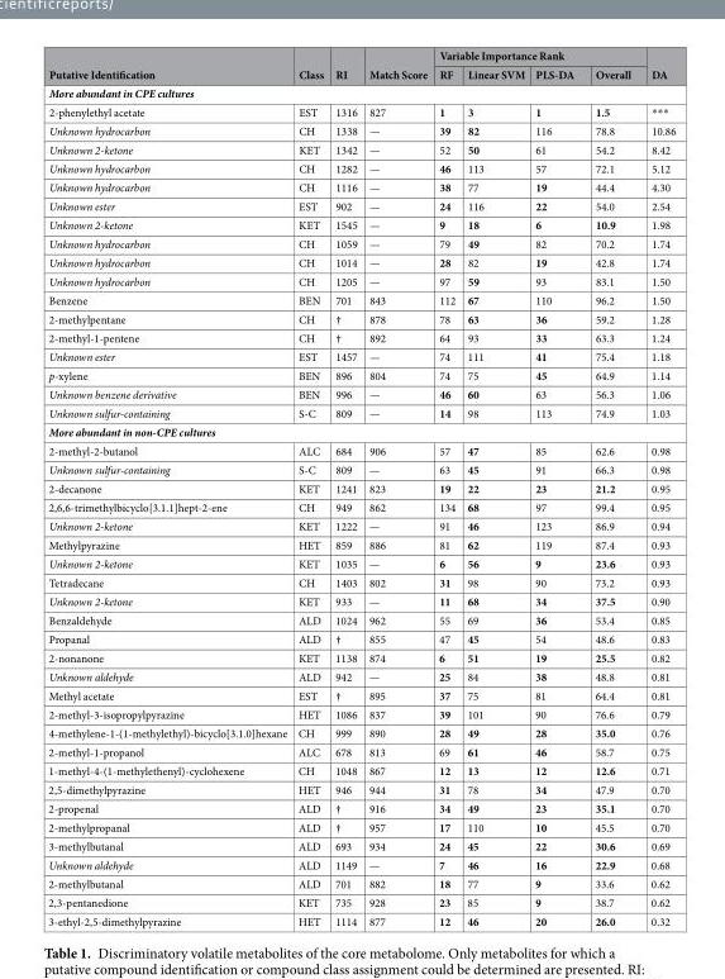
<table><thead><tr><td rowspan="2">Putative Identification</td><td rowspan="2">Class</td><td rowspan="2">RI</td><td rowspan="2">Match Score</td><td colspan="4">Variable Importance Rank</td><td rowspan="2">DA</td></tr><tr><td>RF</td><td>Linear SVM</td><td>PLS-DA</td><td>Overall</td></tr></thead><tbody><tr><td colspan="9">More abundant in CPE cultures</td></tr><tr><td>2-phenylethyl acetate</td><td>EST</td><td>1316</td><td>827</td><td>1</td><td>3</td><td>1</td><td>1.5</td><td>***</td></tr><tr><td>Unknown hydrocarbon</td><td>CH</td><td>1338</td><td>—</td><td>39</td><td>82</td><td>116</td><td>78.8</td><td>10.86</td></tr><tr><td>Unknown 2-ketone</td><td>KET</td><td>1342</td><td>—</td><td>52</td><td>50</td><td>61</td><td>54.2</td><td>8.42</td></tr><tr><td>Unknown hydrocarbon</td><td>CH</td><td>1282</td><td>—</td><td>46</td><td>113</td><td>57</td><td>72.1</td><td>5.12</td></tr><tr><td>Unknown hydrocarbon</td><td>CH</td><td>1116</td><td>—</td><td>38</td><td>77</td><td>19</td><td>44.4</td><td>4.30</td></tr><tr><td>Unknown ester</td><td>EST</td><td>902</td><td>—</td><td>24</td><td>116</td><td>22</td><td>54.0</td><td>2.54</td></tr><tr><td>Unknown 2-ketone</td><td>KET</td><td>1545</td><td>—</td><td>9</td><td>18</td><td>6</td><td>10.9</td><td>1.98</td></tr><tr><td>Unknown hydrocarbon</td><td>CH</td><td>1059</td><td>—</td><td>79</td><td>49</td><td>82</td><td>70.2</td><td>1.74</td></tr><tr><td>Unknown hydrocarbon</td><td>CH</td><td>1014</td><td>—</td><td>28</td><td>82</td><td>19</td><td>42.8</td><td>1.74</td></tr><tr><td>Unknown hydrocarbon</td><td>CH</td><td>1205</td><td>—</td><td>97</td><td>59</td><td>93</td><td>83.1</td><td>1.50</td></tr><tr><td>Benzene</td><td>BEN</td><td>701</td><td>843</td><td>112</td><td>67</td><td>110</td><td>96.2</td><td>1.50</td></tr><tr><td>2-methylpentane</td><td>CH</td><td>†</td><td>878</td><td>78</td><td>63</td><td>36</td><td>59.2</td><td>1.28</td></tr><tr><td>2-methyl-1-pentene</td><td>CH</td><td>†</td><td>892</td><td>64</td><td>93</td><td>33</td><td>63.3</td><td>1.24</td></tr><tr><td>Unknown ester</td><td>EST</td><td>1457</td><td>—</td><td>74</td><td>111</td><td>41</td><td>75.4</td><td>1.18</td></tr><tr><td>p-xylene</td><td>BEN</td><td>896</td><td>804</td><td>74</td><td>75</td><td>45</td><td>64.9</td><td>1.14</td></tr><tr><td>Unknown benzene derivative</td><td>BEN</td><td>996</td><td>—</td><td>46</td><td>60</td><td>63</td><td>56.3</td><td>1.06</td></tr><tr><td>Unknown sulfur-containing</td><td>S-C</td><td>809</td><td>—</td><td>14</td><td>98</td><td>113</td><td>74.9</td><td>1.03</td></tr><tr><td colspan="9">More abundant in non-CPE cultures</td></tr><tr><td>2-methyl-2-butanol</td><td>ALC</td><td>684</td><td>906</td><td>57</td><td>47</td><td>85</td><td>62.6</td><td>0.98</td></tr><tr><td>Unknown sulfur-containing</td><td>S-C</td><td>809</td><td>—</td><td>63</td><td>45</td><td>91</td><td>66.3</td><td>0.98</td></tr><tr><td>2-decanone</td><td>KET</td><td>1241</td><td>823</td><td>19</td><td>22</td><td>23</td><td>21.2</td><td>0.95</td></tr><tr><td>2,6,6-trimethylbicyclo[3.1.1]hept-2-ene</td><td>CH</td><td>949</td><td>862</td><td>134</td><td>68</td><td>97</td><td>99.4</td><td>0.95</td></tr><tr><td>Unknown 2-ketone</td><td>KET</td><td>1222</td><td>—</td><td>91</td><td>46</td><td>123</td><td>86.9</td><td>0.94</td></tr><tr><td>Methylpyrazine</td><td>HET</td><td>859</td><td>886</td><td>81</td><td>62</td><td>119</td><td>87.4</td><td>0.93</td></tr><tr><td>Unknown 2-ketone</td><td>KET</td><td>1035</td><td>—</td><td>6</td><td>56</td><td>9</td><td>23.6</td><td>0.93</td></tr><tr><td>Tetradecane</td><td>CH</td><td>1403</td><td>802</td><td>31</td><td>98</td><td>90</td><td>73.2</td><td>0.93</td></tr><tr><td>Unknown 2-ketone</td><td>KET</td><td>933</td><td>—</td><td>11</td><td>68</td><td>34</td><td>37.5</td><td>0.90</td></tr><tr><td>Benzaldehyde</td><td>ALD</td><td>1024</td><td>962</td><td>55</td><td>69</td><td>36</td><td>53.4</td><td>0.85</td></tr><tr><td>Propanal</td><td>ALD</td><td>†</td><td>855</td><td>47</td><td>45</td><td>54</td><td>48.6</td><td>0.83</td></tr><tr><td>2-nonanone</td><td>KET</td><td>1138</td><td>874</td><td>6</td><td>51</td><td>19</td><td>25.5</td><td>0.82</td></tr><tr><td>Unknown aldehyde</td><td>ALD</td><td>942</td><td>—</td><td>25</td><td>84</td><td>38</td><td>48.8</td><td>0.81</td></tr><tr><td>Methyl acetate</td><td>EST</td><td>†</td><td>895</td><td>37</td><td>75</td><td>81</td><td>64.4</td><td>0.81</td></tr><tr><td>2-methyl-3-isopropylpyrazine</td><td>HET</td><td>1086</td><td>837</td><td>39</td><td>101</td><td>90</td><td>76.6</td><td>0.79</td></tr><tr><td>4-methylene-1-(1-methylethyl)-bicyclo[3.1.0]hexane</td><td>CH</td><td>999</td><td>890</td><td>28</td><td>49</td><td>28</td><td>35.0</td><td>0.76</td></tr><tr><td>2-methyl-1-propanol</td><td>ALC</td><td>678</td><td>813</td><td>69</td><td>61</td><td>46</td><td>58.7</td><td>0.75</td></tr><tr><td>1-methyl-4-(1-methylethenyl)-cyclohexene</td><td>CH</td><td>1048</td><td>867</td><td>12</td><td>13</td><td>12</td><td>12.6</td><td>0.71</td></tr><tr><td>2,5-dimethylpyrazine</td><td>HET</td><td>946</td><td>944</td><td>31</td><td>78</td><td>34</td><td>47.9</td><td>0.70</td></tr><tr><td>2-propenal</td><td>ALD</td><td>†</td><td>916</td><td>34</td><td>49</td><td>23</td><td>35.1</td><td>0.70</td></tr><tr><td>2-methylpropanal</td><td>ALD</td><td>†</td><td>957</td><td>17</td><td>110</td><td>10</td><td>45.5</td><td>0.70</td></tr><tr><td>3-methylbutanal</td><td>ALD</td><td>693</td><td>934</td><td>24</td><td>45</td><td>22</td><td>30.6</td><td>0.69</td></tr><tr><td>Unknown aldehyde</td><td>ALD</td><td>1149</td><td>—</td><td>7</td><td>46</td><td>16</td><td>22.9</td><td>0.68</td></tr><tr><td>2-methylbutanal</td><td>ALD</td><td>701</td><td>882</td><td>18</td><td>77</td><td>9</td><td>33.6</td><td>0.62</td></tr><tr><td>2,3-pentanedione</td><td>KET</td><td>735</td><td>928</td><td>23</td><td>85</td><td>9</td><td>38.7</td><td>0.62</td></tr><tr><td>3-ethyl-2,5-dimethylpyrazine</td><td>HET</td><td>1114</td><td>877</td><td>12</td><td>46</td><td>20</td><td>26.0</td><td>0.32</td></tr></tbody></table>